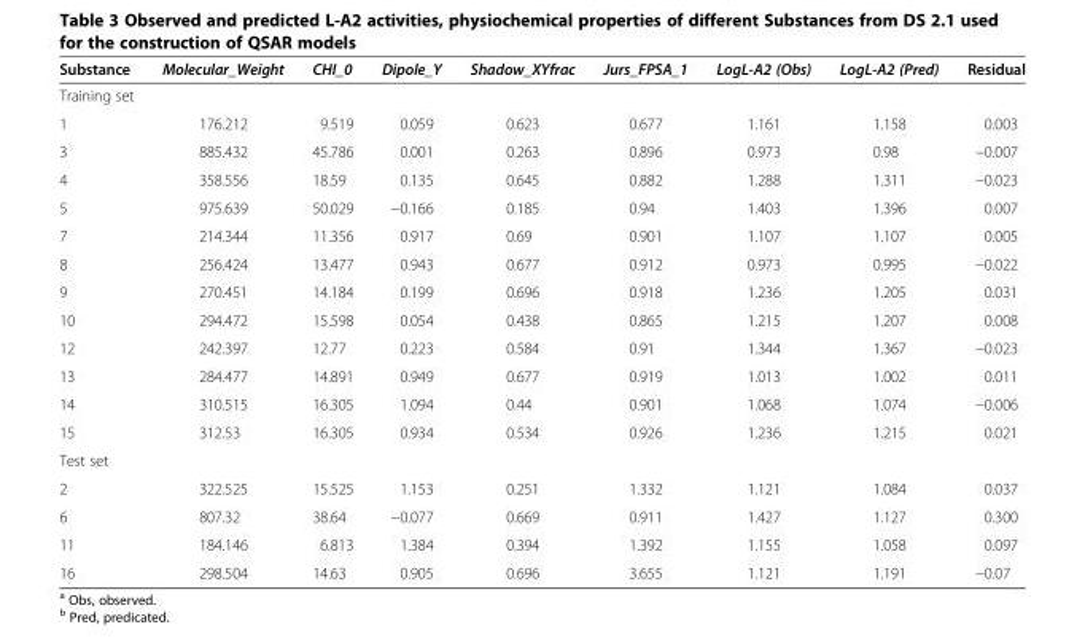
<table><thead><tr><td>Substance</td><td>Molecular_Weight</td><td>CHI_0</td><td>Dipole_Y</td><td>Shadow_XYfrac</td><td>Jurs_FPSA_1</td><td>LogL-A2 (Obs)</td><td>LogL-A2 (Pred)</td><td>Residual</td></tr></thead><tbody><tr><td colspan="9">Training set</td></tr><tr><td>1</td><td>176.212</td><td>9.519</td><td>0.059</td><td>0.623</td><td>0.677</td><td>1.161</td><td>1.158</td><td>0.003</td></tr><tr><td>3</td><td>885.432</td><td>45.786</td><td>0.001</td><td>0.263</td><td>0.896</td><td>0.973</td><td>0.98</td><td>−0.007</td></tr><tr><td>4</td><td>358.556</td><td>18.59</td><td>0.135</td><td>0.645</td><td>0.882</td><td>1.288</td><td>1.311</td><td>−0.023</td></tr><tr><td>5</td><td>975.639</td><td>50.029</td><td>−0.166</td><td>0.185</td><td>0.94</td><td>1.403</td><td>1.396</td><td>0.007</td></tr><tr><td>7</td><td>214.344</td><td>11.356</td><td>0.917</td><td>0.69</td><td>0.901</td><td>1.107</td><td>1.107</td><td>0.005</td></tr><tr><td>8</td><td>256.424</td><td>13.477</td><td>0.943</td><td>0.677</td><td>0.912</td><td>0.973</td><td>0.995</td><td>−0.022</td></tr><tr><td>9</td><td>270.451</td><td>14.184</td><td>0.199</td><td>0.696</td><td>0.918</td><td>1.236</td><td>1.205</td><td>0.031</td></tr><tr><td>10</td><td>294.472</td><td>15.598</td><td>0.054</td><td>0.438</td><td>0.865</td><td>1.215</td><td>1.207</td><td>0.008</td></tr><tr><td>12</td><td>242.397</td><td>12.77</td><td>0.223</td><td>0.584</td><td>0.91</td><td>1.344</td><td>1.367</td><td>−0.023</td></tr><tr><td>13</td><td>284.477</td><td>14.891</td><td>0.949</td><td>0.677</td><td>0.919</td><td>1.013</td><td>1.002</td><td>0.011</td></tr><tr><td>14</td><td>310.515</td><td>16.305</td><td>1.094</td><td>0.44</td><td>0.901</td><td>1.068</td><td>1.074</td><td>−0.006</td></tr><tr><td>15</td><td>312.53</td><td>16.305</td><td>0.934</td><td>0.534</td><td>0.926</td><td>1.236</td><td>1.215</td><td>0.021</td></tr><tr><td colspan="9">Test set</td></tr><tr><td>2</td><td>322.525</td><td>15.525</td><td>1.153</td><td>0.251</td><td>1.332</td><td>1.121</td><td>1.084</td><td>0.037</td></tr><tr><td>6</td><td>807.32</td><td>38.64</td><td>−0.077</td><td>0.669</td><td>0.911</td><td>1.427</td><td>1.127</td><td>0.300</td></tr><tr><td>11</td><td>184.146</td><td>6.813</td><td>1.384</td><td>0.394</td><td>1.392</td><td>1.155</td><td>1.058</td><td>0.097</td></tr><tr><td>16</td><td>298.504</td><td>14.63</td><td>0.905</td><td>0.696</td><td>3.655</td><td>1.121</td><td>1.191</td><td>−0.07</td></tr></tbody></table>